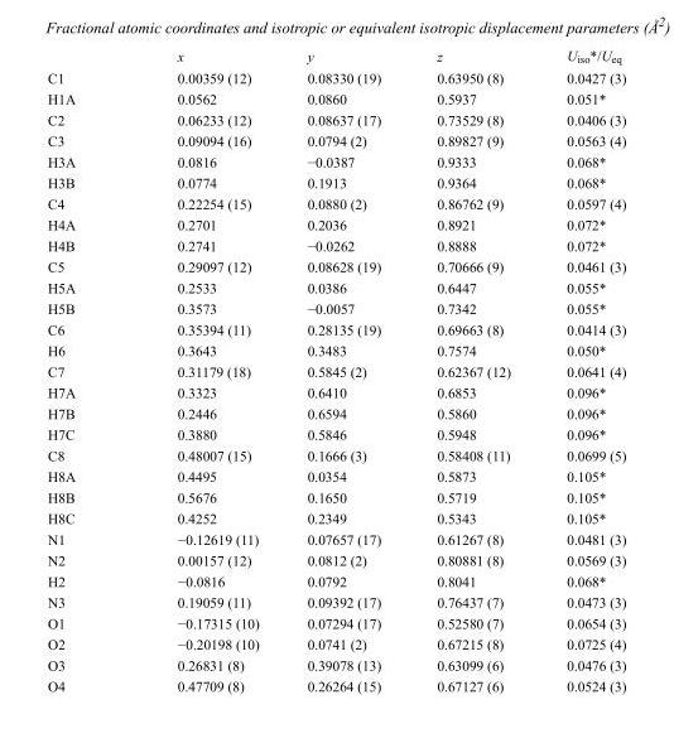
<table><thead><tr><td></td><td>x</td><td>y</td><td>z</td><td>U<sub>iso</sub>*/U<sub>eq</sub></td></tr></thead><tbody><tr><td>C1</td><td>0.00359 (12)</td><td>0.08330 (19)</td><td>0.63950 (8)</td><td>0.0427 (3)</td></tr><tr><td>H1A</td><td>0.0562</td><td>0.0860</td><td>0.5937</td><td>0.051*</td></tr><tr><td>C2</td><td>0.06233 (12)</td><td>0.08637 (17)</td><td>0.73529 (8)</td><td>0.0406 (3)</td></tr><tr><td>C3</td><td>0.09094 (16)</td><td>0.0794 (2)</td><td>0.89827 (9)</td><td>0.0563 (4)</td></tr><tr><td>H3A</td><td>0.0816</td><td>−0.0387</td><td>0.9333</td><td>0.068*</td></tr><tr><td>H3B</td><td>0.0774</td><td>0.1913</td><td>0.9364</td><td>0.068*</td></tr><tr><td>C4</td><td>0.22254 (15)</td><td>0.0880 (2)</td><td>0.86762 (9)</td><td>0.0597 (4)</td></tr><tr><td>H4A</td><td>0.2701</td><td>0.2036</td><td>0.8921</td><td>0.072*</td></tr><tr><td>H4B</td><td>0.2741</td><td>−0.0262</td><td>0.8888</td><td>0.072*</td></tr><tr><td>C5</td><td>0.29097 (12)</td><td>0.08628 (19)</td><td>0.70666 (9)</td><td>0.0461 (3)</td></tr><tr><td>H5A</td><td>0.2533</td><td>0.0386</td><td>0.6447</td><td>0.055*</td></tr><tr><td>H5B</td><td>0.3573</td><td>−0.0057</td><td>0.7342</td><td>0.055*</td></tr><tr><td>C6</td><td>0.35394 (11)</td><td>0.28135 (19)</td><td>0.69663 (8)</td><td>0.0414 (3)</td></tr><tr><td>H6</td><td>0.3643</td><td>0.3483</td><td>0.7574</td><td>0.050*</td></tr><tr><td>C7</td><td>0.31179 (18)</td><td>0.5845 (2)</td><td>0.62367 (12)</td><td>0.0641 (4)</td></tr><tr><td>H7A</td><td>0.3323</td><td>0.6410</td><td>0.6853</td><td>0.096*</td></tr><tr><td>H7B</td><td>0.2446</td><td>0.6594</td><td>0.5860</td><td>0.096*</td></tr><tr><td>H7C</td><td>0.3880</td><td>0.5846</td><td>0.5948</td><td>0.096*</td></tr><tr><td>C8</td><td>0.48007 (15)</td><td>0.1666 (3)</td><td>0.58408 (11)</td><td>0.0699 (5)</td></tr><tr><td>H8A</td><td>0.4495</td><td>0.0354</td><td>0.5873</td><td>0.105*</td></tr><tr><td>H8B</td><td>0.5676</td><td>0.1650</td><td>0.5719</td><td>0.105*</td></tr><tr><td>H8C</td><td>0.4252</td><td>0.2349</td><td>0.5343</td><td>0.105*</td></tr><tr><td>N1</td><td>−0.12619 (11)</td><td>0.07657 (17)</td><td>0.61267 (8)</td><td>0.0481 (3)</td></tr><tr><td>N2</td><td>0.00157 (12)</td><td>0.0812 (2)</td><td>0.80881 (8)</td><td>0.0569 (3)</td></tr><tr><td>H2</td><td>−0.0816</td><td>0.0792</td><td>0.8041</td><td>0.068*</td></tr><tr><td>N3</td><td>0.19059 (11)</td><td>0.09392 (17)</td><td>0.76437 (7)</td><td>0.0473 (3)</td></tr><tr><td>O1</td><td>−0.17315 (10)</td><td>0.07294 (17)</td><td>0.52580 (7)</td><td>0.0654 (3)</td></tr><tr><td>O2</td><td>−0.20198 (10)</td><td>0.0741 (2)</td><td>0.67215 (8)</td><td>0.0725 (4)</td></tr><tr><td>O3</td><td>0.26831 (8)</td><td>0.39078 (13)</td><td>0.63099 (6)</td><td>0.0476 (3)</td></tr><tr><td>O4</td><td>0.47709 (8)</td><td>0.26264 (15)</td><td>0.67127 (6)</td><td>0.0524 (3)</td></tr></tbody></table>